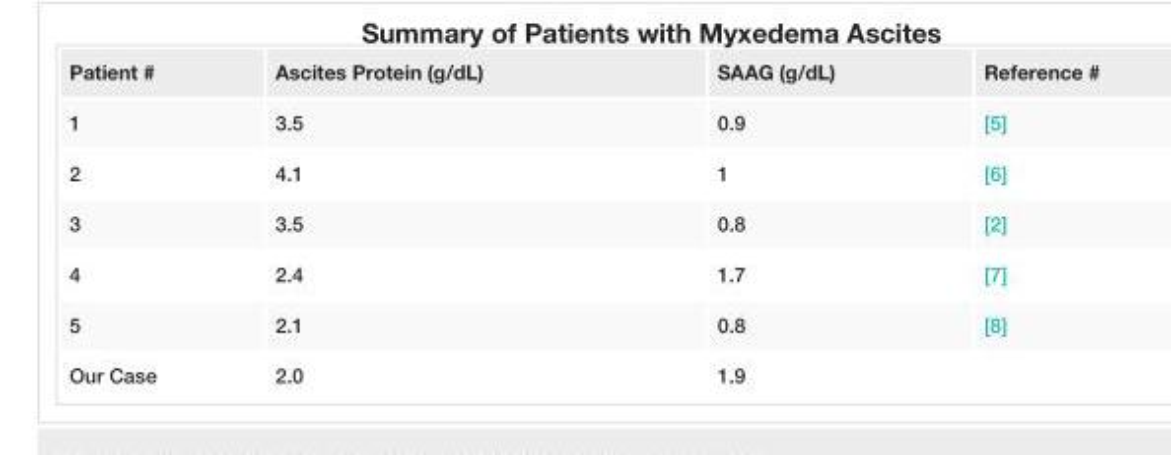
<table><tbody><tr><td>Patient #</td><td>Ascites Protein (g/dL)</td><td>SAAG (g/dL)</td><td>Reference #</td></tr><tr><td>1</td><td>3.5</td><td>0.9</td><td>[5]</td></tr><tr><td>2</td><td>4.1</td><td>1</td><td>[6]</td></tr><tr><td>3</td><td>3.5</td><td>0.8</td><td>[2]</td></tr><tr><td>4</td><td>2.4</td><td>1.7</td><td>[7]</td></tr><tr><td>5</td><td>2.1</td><td>0.8</td><td>[8]</td></tr><tr><td>Our Case</td><td>2.0</td><td>1.9</td><td></td></tr></tbody></table>